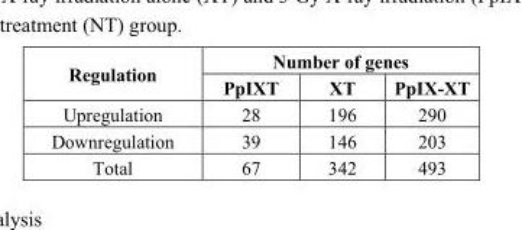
<table><thead><tr><td rowspan="2">Regulation</td><td colspan="3">Number of genes</td></tr><tr><td>PpIXT</td><td>XT</td><td>PpIX-XT</td></tr></thead><tbody><tr><td>Upregulation</td><td>28</td><td>196</td><td>290</td></tr><tr><td>Downregulation</td><td>39</td><td>146</td><td>203</td></tr><tr><td>Total</td><td>67</td><td>342</td><td>493</td></tr></tbody></table>